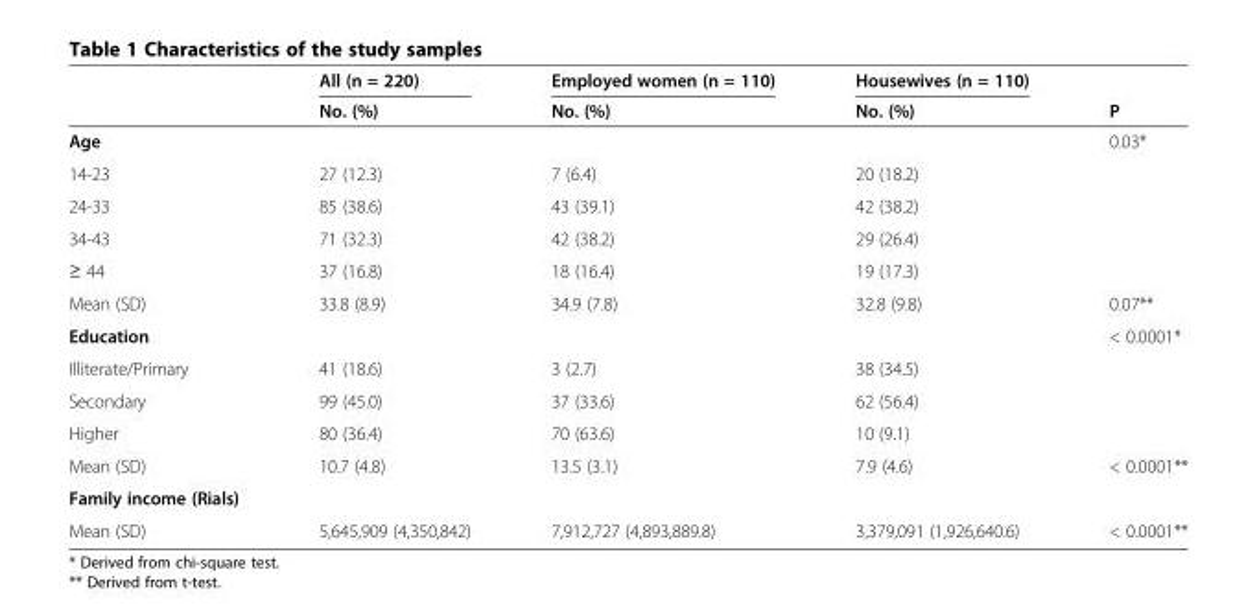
<table><thead><tr><td></td><td>All (n = 220)</td><td>Employed women (n = 110)</td><td>Housewives (n = 110)</td><td></td></tr></thead><tbody><tr><td></td><td>No. (%)</td><td>No. (%)</td><td>No. (%)</td><td>P</td></tr><tr><td>Age</td><td></td><td></td><td></td><td>0.03*</td></tr><tr><td>14-23</td><td>27 (12.3)</td><td>7 (6.4)</td><td>20 (18.2)</td><td></td></tr><tr><td>24-33</td><td>85 (38.6)</td><td>43 (39.1)</td><td>42 (38.2)</td><td></td></tr><tr><td>34-43</td><td>71 (32.3)</td><td>42 (38.2)</td><td>29 (26.4)</td><td></td></tr><tr><td>≥ 44</td><td>37 (16.8)</td><td>18 (16.4)</td><td>19 (17.3)</td><td></td></tr><tr><td>Mean (SD)</td><td>33.8 (8.9)</td><td>34.9 (7.8)</td><td>32.8 (9.8)</td><td>0.07**</td></tr><tr><td>Education</td><td></td><td></td><td></td><td>&lt; 0.0001*</td></tr><tr><td>Illiterate/Primary</td><td>41 (18.6)</td><td>3 (2.7)</td><td>38 (34.5)</td><td></td></tr><tr><td>Secondary</td><td>99 (45.0)</td><td>37 (33.6)</td><td>62 (56.4)</td><td></td></tr><tr><td>Higher</td><td>80 (36.4)</td><td>70 (63.6)</td><td>10 (9.1)</td><td></td></tr><tr><td>Mean (SD)</td><td>10.7 (4.8)</td><td>13.5 (3.1)</td><td>7.9 (4.6)</td><td>&lt; 0.0001**</td></tr><tr><td colspan="5">Family income (Rials)</td></tr><tr><td>Mean (SD)</td><td>5,645,909 (4,350,842)</td><td>7,912,727 (4,893,889.8)</td><td>3,379,091 (1,926,640.6)</td><td>&lt; 0.0001**</td></tr></tbody></table>